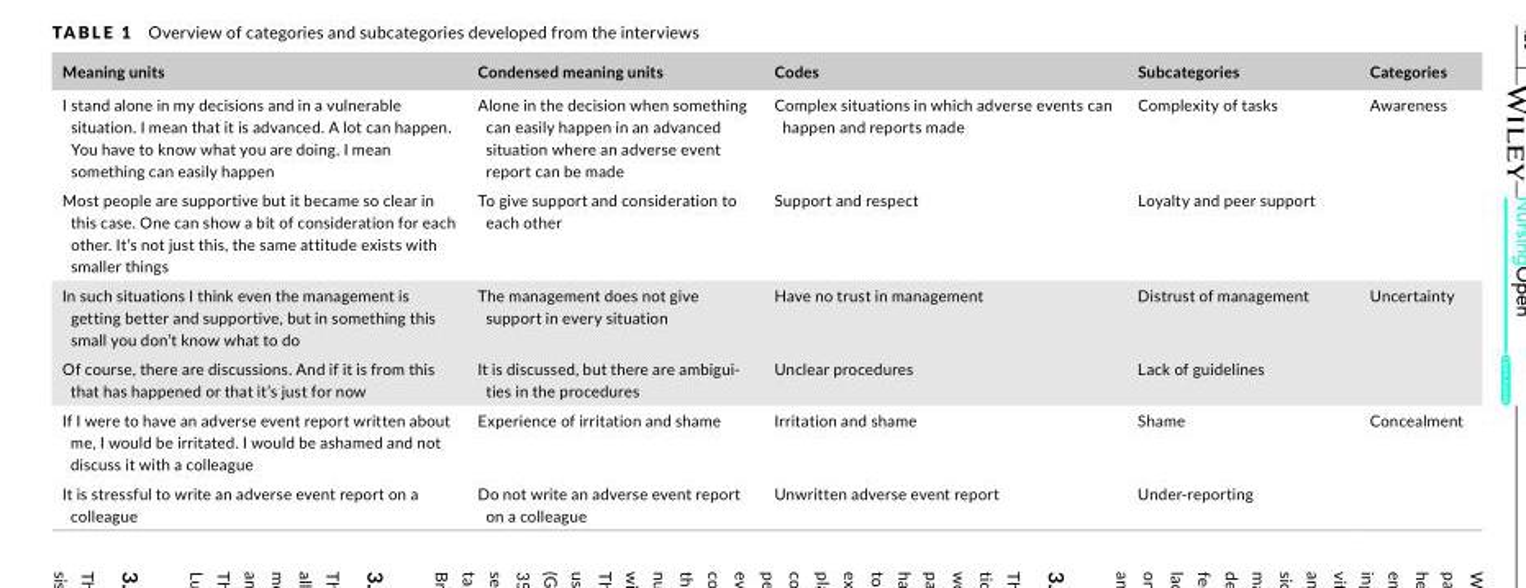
<table><thead><tr><td>Meaning units</td><td>Condensed meaning units</td><td>Codes</td><td>Subcategories</td><td>Categories</td></tr></thead><tbody><tr><td>I stand alone in my decisions and in a vulnerable situation. I mean that it is advanced. A lot can happen. You have to know what you are doing. I mean something can easily happen</td><td>Alone in the decision when something can easily happen in an advanced situation where an adverse event report can be made</td><td>Complex situations in which adverse events can happen and reports made</td><td>Complexity of tasks</td><td>Awareness</td></tr><tr><td>Most people are supportive but it became so clear in this case. One can show a bit of consideration for each other. It’s not just this, the same attitude exists with smaller things</td><td>To give support and consideration to each other</td><td>Support and respect</td><td>Loyalty and peer support</td><td></td></tr><tr><td>In such situations I think even the management is getting better and supportive, but in something this small you don’t know what to do</td><td>The management does not give support in every situation</td><td>Have no trust in management</td><td>Distrust of management</td><td>Uncertainty</td></tr><tr><td>Of course, there are discussions. And if it is from this that has happened or that it’s just for now</td><td>It is discussed, but there are ambigui‐ ties in the procedures</td><td>Unclear procedures</td><td>Lack of guidelines</td><td></td></tr><tr><td>If I were to have an adverse event report written about me, I would be irritated. I would be ashamed and not discuss it with a colleague</td><td>Experience of irritation and shame</td><td>Irritation and shame</td><td>Shame</td><td>Concealment</td></tr><tr><td>It is stressful to write an adverse event report on a colleague</td><td>Do not write an adverse event report on a colleague</td><td>Unwritten adverse event report</td><td>Under‐reporting</td><td></td></tr></tbody></table>